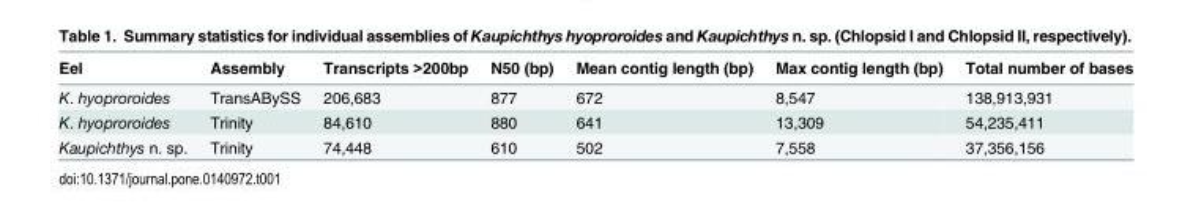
<table><thead><tr><td>Eel</td><td>Assembly</td><td>Transcripts &gt;200bp</td><td>N50 (bp)</td><td>Mean contig length (bp)</td><td>Max contig length (bp)</td><td>Total number of bases</td></tr></thead><tbody><tr><td>K. hyoproroides</td><td>TransABySS</td><td>206,683</td><td>877</td><td>672</td><td>8,547</td><td>138,913,931</td></tr><tr><td>K. hyoproroides</td><td>Trinity</td><td>84,610</td><td>880</td><td>641</td><td>13,309</td><td>54,235,411</td></tr><tr><td>Kaupichthys n. sp.</td><td>Trinity</td><td>74,448</td><td>610</td><td>502</td><td>7,558</td><td>37,356,156</td></tr></tbody></table>